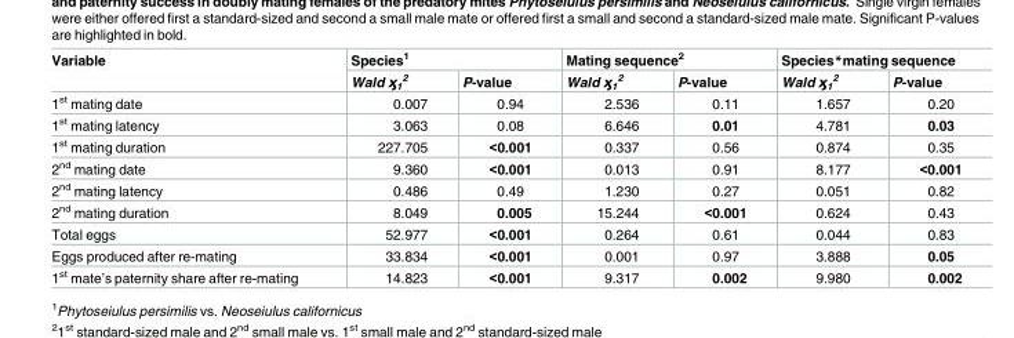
<table><thead><tr><td rowspan="2">Variable</td><td colspan="2">Species<sup>1</sup></td><td colspan="2">Mating sequence<sup>2</sup></td><td colspan="2">Species*mating sequence</td></tr><tr><td>Wald ӽ<sub>1</sub> <sup>2</sup></td><td>P-value</td><td>Wald ӽ<sub>1</sub> <sup>2</sup></td><td>P-value</td><td>Wald ӽ<sub>1</sub> <sup>2</sup></td><td>P-value</td></tr></thead><tbody><tr><td>1<sup>st</sup> mating date</td><td>0.007</td><td>0.94</td><td>2.536</td><td>0.11</td><td>1.657</td><td>0.20</td></tr><tr><td>1<sup>st</sup> mating latency</td><td>3.063</td><td>0.08</td><td>6.646</td><td>0.01</td><td>4.781</td><td>0.03</td></tr><tr><td>1<sup>st</sup> mating duration</td><td>227.705</td><td>&lt;0.001</td><td>0.337</td><td>0.56</td><td>0.874</td><td>0.35</td></tr><tr><td>2<sup>nd</sup> mating date</td><td>9.360</td><td>&lt;0.001</td><td>0.013</td><td>0.91</td><td>8.177</td><td>&lt;0.001</td></tr><tr><td>2<sup>nd</sup> mating latency</td><td>0.486</td><td>0.49</td><td>1.230</td><td>0.27</td><td>0.051</td><td>0.82</td></tr><tr><td>2<sup>nd</sup> mating duration</td><td>8.049</td><td>0.005</td><td>15.244</td><td>&lt;0.001</td><td>0.624</td><td>0.43</td></tr><tr><td>Total eggs</td><td>52.977</td><td>&lt;0.001</td><td>0.264</td><td>0.61</td><td>0.044</td><td>0.83</td></tr><tr><td>Eggs produced after re-mating</td><td>33.834</td><td>&lt;0.001</td><td>0.001</td><td>0.97</td><td>3.888</td><td>0.05</td></tr><tr><td>1<sup>st</sup> mate’s paternity share after re-mating</td><td>14.823</td><td>&lt;0.001</td><td>9.317</td><td>0.002</td><td>9.980</td><td>0.002</td></tr></tbody></table>